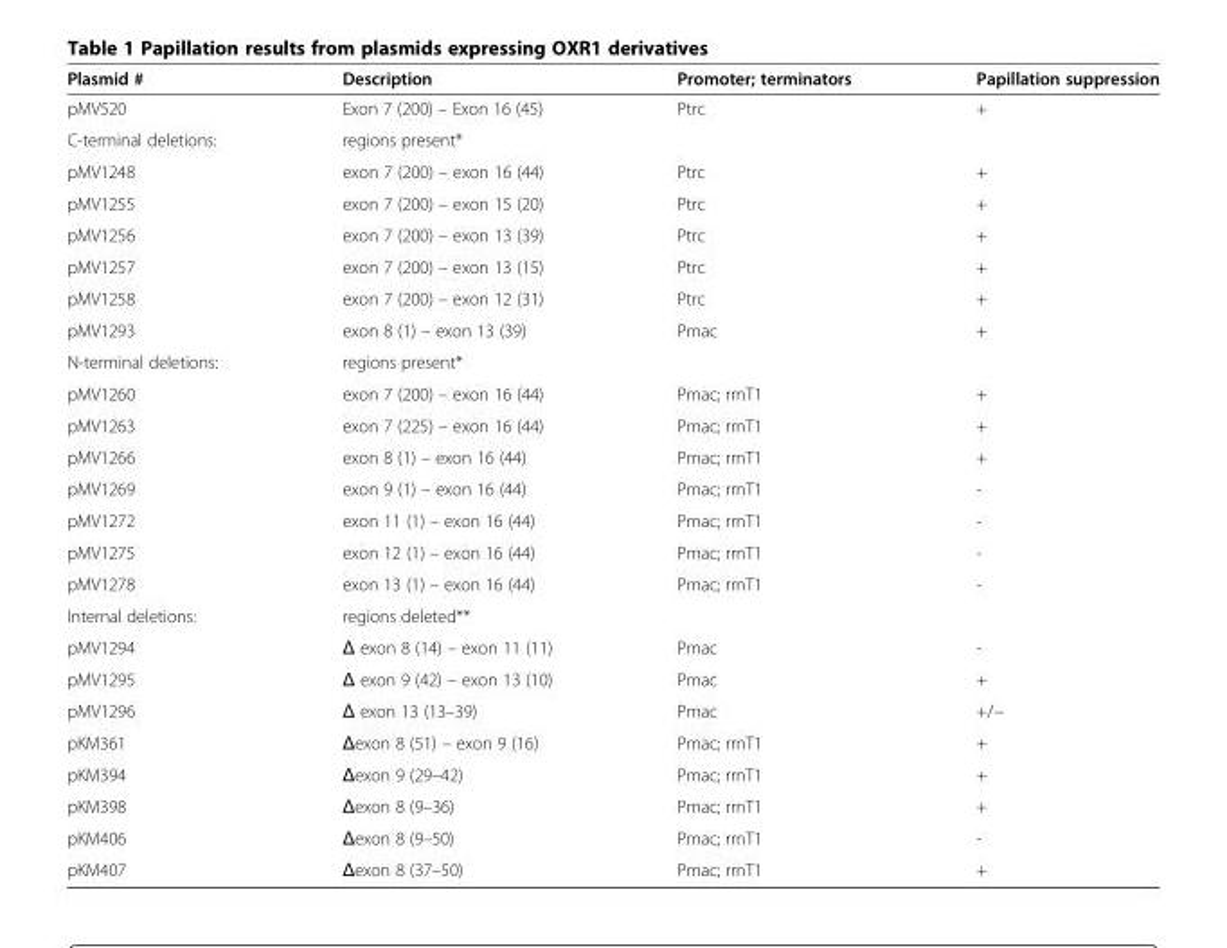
<table><thead><tr><td>Plasmid #</td><td>Description</td><td>Promoter; terminators</td><td>Papillation suppression</td></tr></thead><tbody><tr><td>pMV520</td><td>Exon 7 (200) – Exon 16 (45)</td><td>Ptrc</td><td>+</td></tr><tr><td>C-terminal deletions:</td><td>regions present*</td><td></td><td></td></tr><tr><td>pMV1248</td><td>exon 7 (200) – exon 16 (44)</td><td>Ptrc</td><td>+</td></tr><tr><td>pMV1255</td><td>exon 7 (200) – exon 15 (20)</td><td>Ptrc</td><td>+</td></tr><tr><td>pMV1256</td><td>exon 7 (200) – exon 13 (39)</td><td>Ptrc</td><td>+</td></tr><tr><td>pMV1257</td><td>exon 7 (200) – exon 13 (15)</td><td>Ptrc</td><td>+</td></tr><tr><td>pMV1258</td><td>exon 7 (200) – exon 12 (31)</td><td>Ptrc</td><td>+</td></tr><tr><td>pMV1293</td><td>exon 8 (1) – exon 13 (39)</td><td>Pmac</td><td>+</td></tr><tr><td>N-terminal deletions:</td><td>regions present*</td><td></td><td></td></tr><tr><td>pMV1260</td><td>exon 7 (200) – exon 16 (44)</td><td>Pmac; rrnT1</td><td>+</td></tr><tr><td>pMV1263</td><td>exon 7 (225) – exon 16 (44)</td><td>Pmac; rrnT1</td><td>+</td></tr><tr><td>pMV1266</td><td>exon 8 (1) – exon 16 (44)</td><td>Pmac; rrnT1</td><td>+</td></tr><tr><td>pMV1269</td><td>exon 9 (1) – exon 16 (44)</td><td>Pmac; rrnT1</td><td>-</td></tr><tr><td>pMV1272</td><td>exon 11 (1) – exon 16 (44)</td><td>Pmac; rrnT1</td><td>-</td></tr><tr><td>pMV1275</td><td>exon 12 (1) – exon 16 (44)</td><td>Pmac; rrnT1</td><td>-</td></tr><tr><td>pMV1278</td><td>exon 13 (1) – exon 16 (44)</td><td>Pmac; rrnT1</td><td>-</td></tr><tr><td>Internal deletions:</td><td>regions deleted**</td><td></td><td></td></tr><tr><td>pMV1294</td><td>Δ exon 8 (14) – exon 11 (11)</td><td>Pmac</td><td>-</td></tr><tr><td>pMV1295</td><td>Δ exon 9 (42) – exon 13 (10)</td><td>Pmac</td><td>+</td></tr><tr><td>pMV1296</td><td>Δ exon 13 (13–39)</td><td>Pmac</td><td>+/−</td></tr><tr><td>pKM361</td><td>Δexon 8 (51) – exon 9 (16)</td><td>Pmac; rrnT1</td><td>+</td></tr><tr><td>pKM394</td><td>Δexon 9 (29–42)</td><td>Pmac; rrnT1</td><td>+</td></tr><tr><td>pKM398</td><td>Δexon 8 (9–36)</td><td>Pmac; rrnT1</td><td>+</td></tr><tr><td>pKM406</td><td>Δexon 8 (9–50)</td><td>Pmac; rrnT1</td><td>-</td></tr><tr><td>pKM407</td><td>Δexon 8 (37–50)</td><td>Pmac; rrnT1</td><td>+</td></tr></tbody></table>